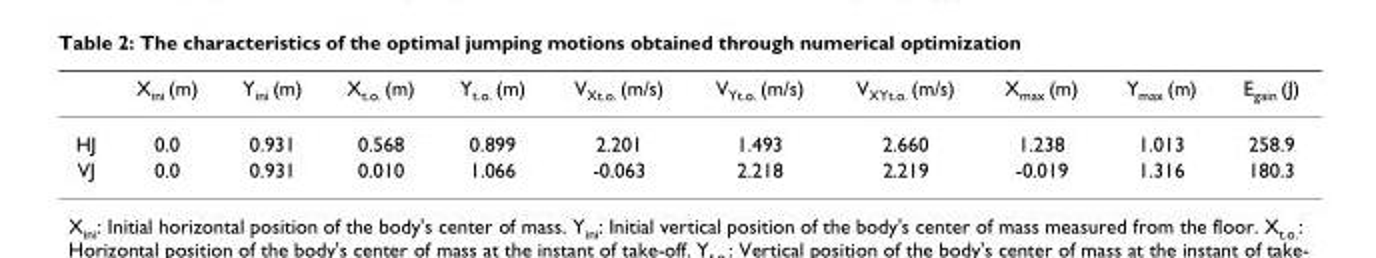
<table><thead><tr><td></td><td>X<sub>ini</sub> (m)</td><td>Y<sub>ini</sub> (m)</td><td>X<sub>t.o.</sub> (m)</td><td>Y<sub>t.o.</sub> (m)</td><td>V<sub>Xt.o.</sub> (m/s)</td><td>V<sub>Yt.o.</sub> (m/s)</td><td>V<sub>XYt.o.</sub> (m/s)</td><td>X<sub>max</sub> (m)</td><td>Y<sub>max</sub> (m)</td><td>E<sub>gain</sub> (J)</td></tr></thead><tbody><tr><td>HJ</td><td>0.0</td><td>0.931</td><td>0.568</td><td>0.899</td><td>2.201</td><td>1.493</td><td>2.660</td><td>1.238</td><td>1.013</td><td>258.9</td></tr><tr><td>VJ</td><td>0.0</td><td>0.931</td><td>0.010</td><td>1.066</td><td>-0.063</td><td>2.218</td><td>2.219</td><td>-0.019</td><td>1.316</td><td>180.3</td></tr></tbody></table>